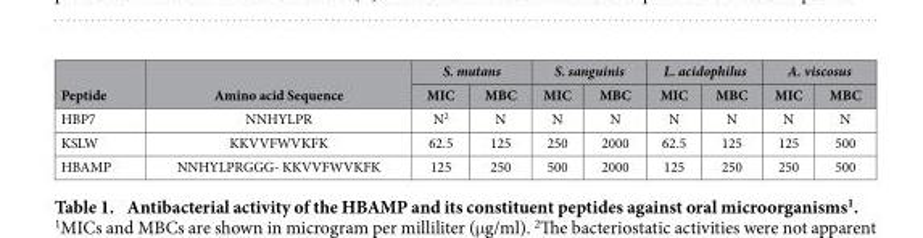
<table><thead><tr><td rowspan="2">Peptide</td><td rowspan="2">Amino acid Sequence</td><td colspan="2">S. mutans</td><td colspan="2">S. sanguinis</td><td colspan="2">L. acidophilus</td><td colspan="2">A. viscosus</td></tr><tr><td>MIC</td><td>MBC</td><td>MIC</td><td>MBC</td><td>MIC</td><td>MBC</td><td>MIC</td><td>MBC</td></tr></thead><tbody><tr><td>HBP7</td><td>NNHYLPR</td><td>N<sup>2</sup></td><td>N</td><td>N</td><td>N</td><td>N</td><td>N</td><td>N</td><td>N</td></tr><tr><td>KSLW</td><td>KKVVFWVKFK</td><td>62.5</td><td>125</td><td>250</td><td>2000</td><td>62.5</td><td>125</td><td>125</td><td>500</td></tr><tr><td>HBAMP</td><td>NNHYLPRGGG- KKVVFWVKFK</td><td>125</td><td>250</td><td>500</td><td>2000</td><td>125</td><td>250</td><td>250</td><td>500</td></tr></tbody></table>